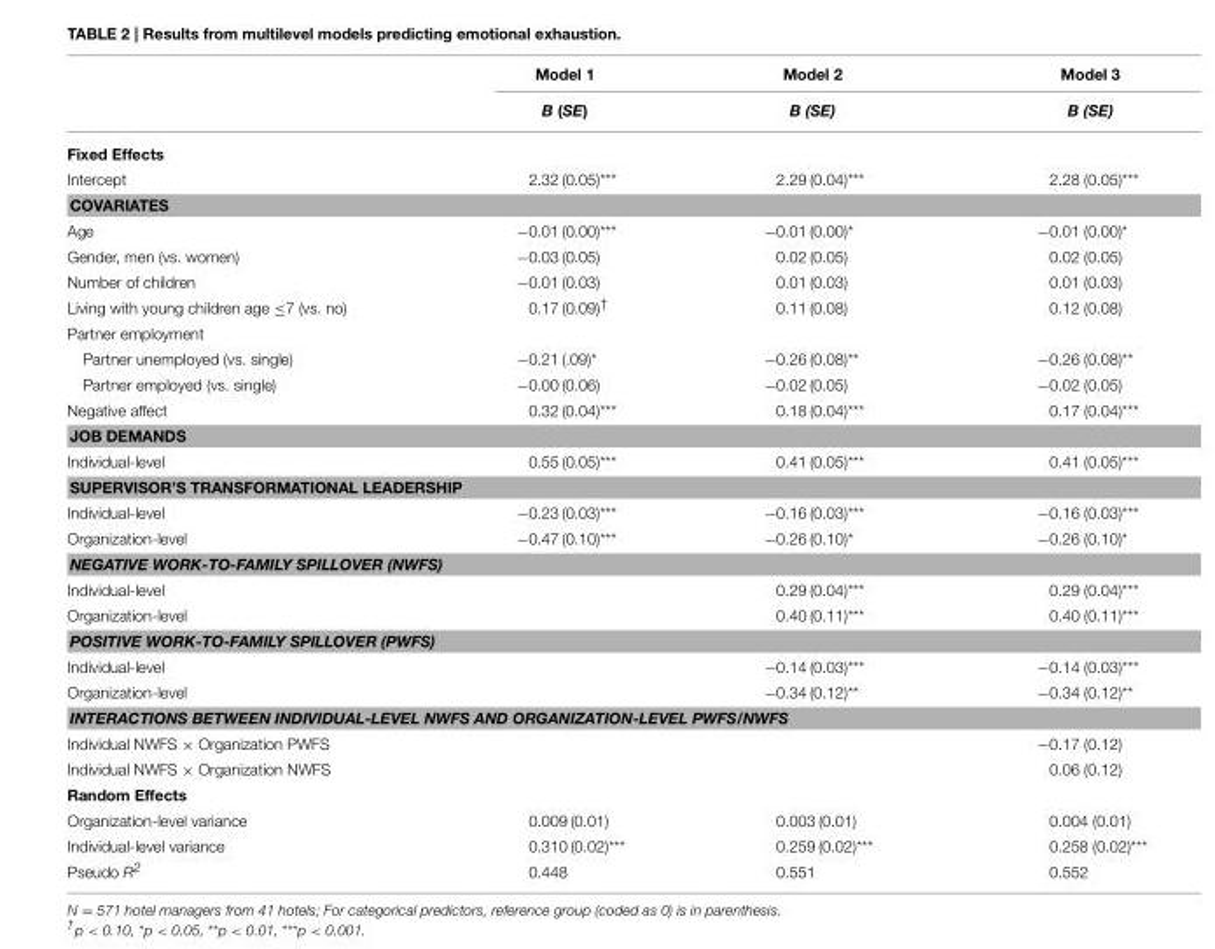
<table><thead><tr><td rowspan="2"></td><td rowspan="2">Model 1 B (SE)</td><td rowspan="2">Model 2 B (SE)</td><td rowspan="2">Model 3 B (SE)</td></tr><tr></tr></thead><tbody><tr><td colspan="4">Fixed Effects</td></tr><tr><td>Intercept</td><td>2.32 (0.05)***</td><td>2.29 (0.04)***</td><td>2.28 (0.05)***</td></tr><tr><td colspan="4">COVARIATES</td></tr><tr><td>Age</td><td>−0.01 (0.00)***</td><td>−0.01 (0.00)*</td><td>−0.01 (0.00)*</td></tr><tr><td>Gender, men (vs. women)</td><td>−0.03 (0.05)</td><td>0.02 (0.05)</td><td>0.02 (0.05)</td></tr><tr><td>Number of children</td><td>−0.01 (0.03)</td><td>0.01 (0.03)</td><td>0.01 (0.03)</td></tr><tr><td>Living with young children age ≤7 (vs. no)</td><td>0.17 (0.09)<sup>†</sup></td><td>0.11 (0.08)</td><td>0.12 (0.08)</td></tr><tr><td colspan="4">Partner employment</td></tr><tr><td>Partner unemployed (vs. single)</td><td>−0.21 (.09)*</td><td>−0.26 (0.08)**</td><td>−0.26 (0.08)**</td></tr><tr><td>Partner employed (vs. single)</td><td>−0.00 (0.06)</td><td>−0.02 (0.05)</td><td>−0.02 (0.05)</td></tr><tr><td>Negative affect</td><td>0.32 (0.04)***</td><td>0.18 (0.04)***</td><td>0.17 (0.04)***</td></tr><tr><td colspan="4">JOB DEMANDS</td></tr><tr><td>Individual-level</td><td>0.55 (0.05)***</td><td>0.41 (0.05)***</td><td>0.41 (0.05)***</td></tr><tr><td colspan="4">SUPERVISOR’S TRANSFORMATIONAL LEADERSHIP</td></tr><tr><td>Individual-level</td><td>−0.23 (0.03)***</td><td>−0.16 (0.03)***</td><td>−0.16 (0.03)***</td></tr><tr><td>Organization-level</td><td>−0.47 (0.10)***</td><td>−0.26 (0.10)*</td><td>−0.26 (0.10)*</td></tr><tr><td colspan="4">NEGATIVE WORK-TO-FAMILY SPILLOVER (NWFS)</td></tr><tr><td>Individual-level</td><td></td><td>0.29 (0.04)***</td><td>0.29 (0.04)***</td></tr><tr><td>Organization-level</td><td></td><td>0.40 (0.11)***</td><td>0.40 (0.11)***</td></tr><tr><td colspan="4">POSITIVE WORK-TO-FAMILY SPILLOVER (PWFS)</td></tr><tr><td>Individual-level</td><td></td><td>−0.14 (0.03)***</td><td>−0.14 (0.03)***</td></tr><tr><td>Organization-level</td><td></td><td>−0.34 (0.12)**</td><td>−0.34 (0.12)**</td></tr><tr><td colspan="4">INTERACTIONS BETWEEN INDIVIDUAL-LEVEL NWFS AND ORGANIZATION-LEVEL PWFS/NWFS</td></tr><tr><td>Individual NWFS × Organization PWFS</td><td></td><td></td><td>−0.17 (0.12)</td></tr><tr><td>Individual NWFS × Organization NWFS</td><td></td><td></td><td>0.06 (0.12)</td></tr><tr><td colspan="4">Random Effects</td></tr><tr><td>Organization-level variance</td><td>0.009 (0.01)</td><td>0.003 (0.01)</td><td>0.004 (0.01)</td></tr><tr><td>Individual-level variance</td><td>0.310 (0.02)***</td><td>0.259 (0.02)***</td><td>0.258 (0.02)***</td></tr><tr><td>Pseudo R<sup>2</sup></td><td>0.448</td><td>0.551</td><td>0.552</td></tr></tbody></table>